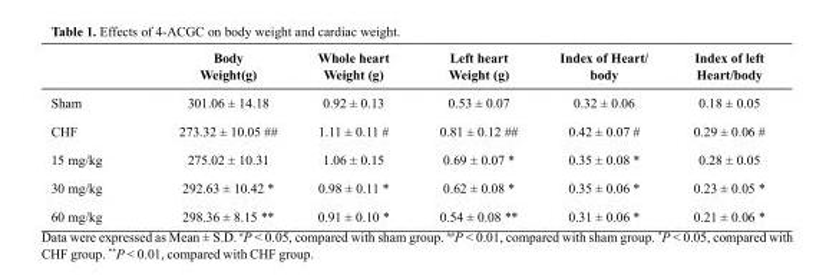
<table><thead><tr><td></td><td>Body Weight(g)</td><td>Whole heart Weight (g)</td><td>Left heart Weight (g)</td><td>Index of Heart/ body</td><td>Index of left Heart/body</td></tr></thead><tbody><tr><td>Sham</td><td>301.06 ± 14.18</td><td>0.92 ± 0.13</td><td>0.53 ± 0.07</td><td>0.32 ± 0.06</td><td>0.18 ± 0.05</td></tr><tr><td>CHF</td><td>273.32 ± 10.05 ##</td><td>1.11 ± 0.11 #</td><td>0.81 ± 0.12 ##</td><td>0.42 ± 0.07 #</td><td>0.29 ± 0.06 #</td></tr><tr><td>15 mg/kg</td><td>275.02 ± 10.31</td><td>1.06 ± 0.15</td><td>0.69 ± 0.07 *</td><td>0.35 ± 0.08 *</td><td>0.28 ± 0.05</td></tr><tr><td>30 mg/kg</td><td>292.63 ± 10.42 *</td><td>0.98 ± 0.11 *</td><td>0.62 ± 0.08 *</td><td>0.35 ± 0.06 *</td><td>0.23 ± 0.05 *</td></tr><tr><td>60 mg/kg</td><td>298.36 ± 8.15 **</td><td>0.91 ± 0.10 *</td><td>0.54 ± 0.08 **</td><td>0.31 ± 0.06 *</td><td>0.21 ± 0.06 *</td></tr></tbody></table>